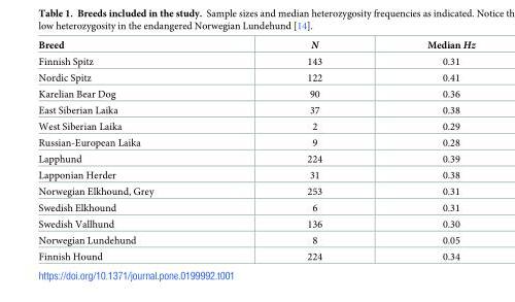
<table><thead><tr><td>Breed</td><td>N</td><td>Median Hz</td></tr></thead><tbody><tr><td>Finnish Spitz</td><td>143</td><td>0.31</td></tr><tr><td>Nordic Spitz</td><td>122</td><td>0.41</td></tr><tr><td>Karelian Bear Dog</td><td>90</td><td>0.36</td></tr><tr><td>East Siberian Laika</td><td>37</td><td>0.38</td></tr><tr><td>West Siberian Laika</td><td>2</td><td>0.29</td></tr><tr><td>Russian-European Laika</td><td>9</td><td>0.28</td></tr><tr><td>Lapphund</td><td>224</td><td>0.39</td></tr><tr><td>Lapponian Herder</td><td>31</td><td>0.38</td></tr><tr><td>Norwegian Elkhound, Grey</td><td>253</td><td>0.31</td></tr><tr><td>Swedish Elkhound</td><td>6</td><td>0.31</td></tr><tr><td>Swedish Vallhund</td><td>136</td><td>0.30</td></tr><tr><td>Norwegian Lundehund</td><td>8</td><td>0.05</td></tr><tr><td>Finnish Hound</td><td>224</td><td>0.34</td></tr></tbody></table>